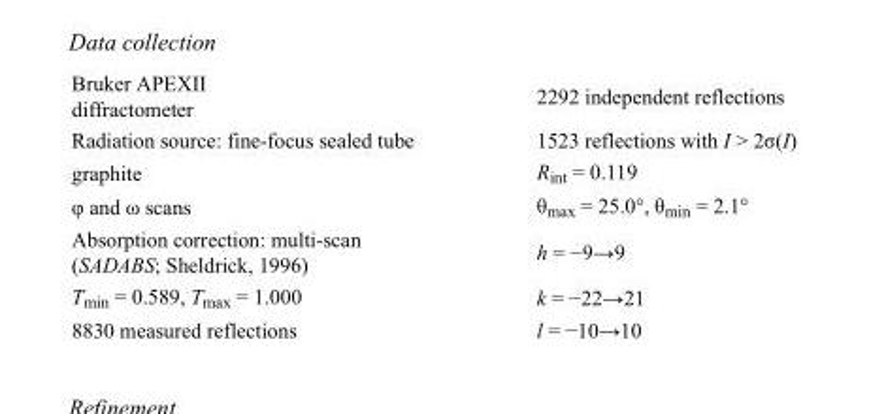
<table><tbody><tr><td>Bruker APEXII diffractometer</td><td>2292 independent reflections</td></tr><tr><td>Radiation source: fine-focus sealed tube</td><td>1523 reflections with I &gt; 2σ(I)</td></tr><tr><td>graphite</td><td>R<sub>int</sub> = 0.119</td></tr><tr><td>φ and ω scans</td><td>θ<sub>max</sub> = 25.0°, θ<sub>min</sub> = 2.1°</td></tr><tr><td>Absorption correction: multi-scan (SADABS; Sheldrick, 1996)</td><td>h = −9→9</td></tr><tr><td>T<sub>min</sub> = 0.589, T<sub>max</sub> = 1.000</td><td>k = −22→21</td></tr><tr><td>8830 measured reflections</td><td>l = −10→10</td></tr></tbody></table>